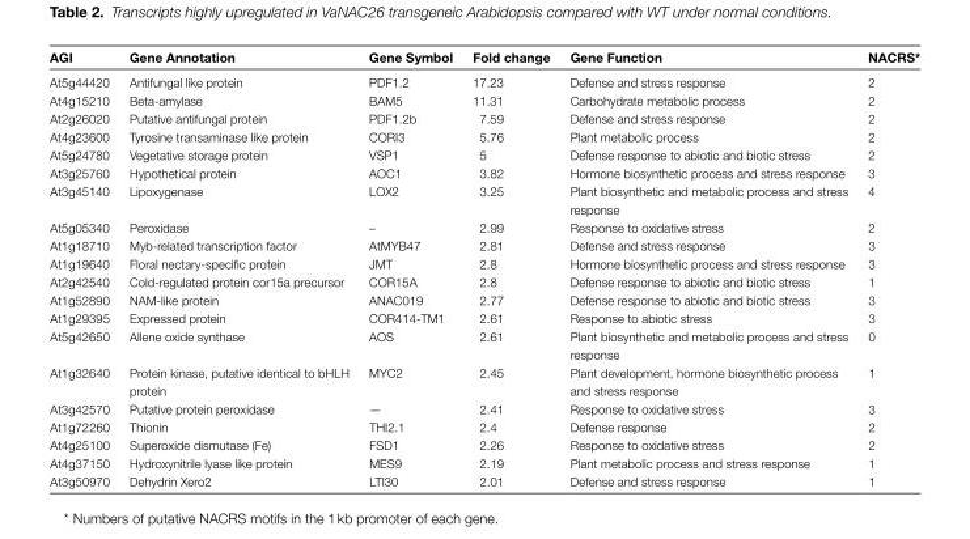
<table><thead><tr><td>AGI</td><td>Gene Annotation</td><td>Gene Symbol</td><td>Fold change</td><td>Gene Function</td><td>NACRS*</td></tr></thead><tbody><tr><td>At5g44420</td><td>Antifungal like protein</td><td>PDF1.2</td><td>17.23</td><td>Defense and stress response</td><td>2</td></tr><tr><td>At4g15210</td><td>Beta-amylase</td><td>BAM5</td><td>11.31</td><td>Carbohydrate metabolic process</td><td>2</td></tr><tr><td>At2g26020</td><td>Putative antifungal protein</td><td>PDF1.2b</td><td>7.59</td><td>Defense and stress response</td><td>2</td></tr><tr><td>At4g23600</td><td>Tyrosine transaminase like protein</td><td>CORI3</td><td>5.76</td><td>Plant metabolic process</td><td>2</td></tr><tr><td>At5g24780</td><td>Vegetative storage protein</td><td>VSP1</td><td>5</td><td>Defense response to abiotic and biotic stress</td><td>2</td></tr><tr><td>At3g25760</td><td>Hypothetical protein</td><td>AOC1</td><td>3.82</td><td>Hormone biosynthetic process and stress response</td><td>3</td></tr><tr><td>At3g45140</td><td>Lipoxygenase</td><td>LOX2</td><td>3.25</td><td>Plant biosynthetic and metabolic process and stress response</td><td>4</td></tr><tr><td>At5g05340</td><td>Peroxidase</td><td>–</td><td>2.99</td><td>Response to oxidative stress</td><td>2</td></tr><tr><td>At1g18710</td><td>Myb-related transcription factor</td><td>AtMYB47</td><td>2.81</td><td>Defense and stress response</td><td>3</td></tr><tr><td>At1g19640</td><td>Floral nectary-specific protein</td><td>JMT</td><td>2.8</td><td>Hormone biosynthetic process and stress response</td><td>3</td></tr><tr><td>At2g42540</td><td>Cold-regulated protein cor15a precursor</td><td>COR15A</td><td>2.8</td><td>Defense response to abiotic and biotic stress</td><td>1</td></tr><tr><td>At1g52890</td><td>NAM-like protein</td><td>ANAC019</td><td>2.77</td><td>Defense response to abiotic and biotic stress</td><td>3</td></tr><tr><td>At1g29395</td><td>Expressed protein</td><td>COR414-TM1</td><td>2.61</td><td>Response to abiotic stress</td><td>3</td></tr><tr><td>At5g42650</td><td>Allene oxide synthase</td><td>AOS</td><td>2.61</td><td>Plant biosynthetic and metabolic process and stress response</td><td>0</td></tr><tr><td>At1g32640</td><td>Protein kinase, putative identical to bHLH protein</td><td>MYC2</td><td>2.45</td><td>Plant development, hormone biosynthetic process and stress response</td><td>1</td></tr><tr><td>At3g42570</td><td>Putative protein peroxidase</td><td>—</td><td>2.41</td><td>Response to oxidative stress</td><td>3</td></tr><tr><td>At1g72260</td><td>Thionin</td><td>THI2.1</td><td>2.4</td><td>Defense response</td><td>2</td></tr><tr><td>At4g25100</td><td>Superoxide dismutase (Fe)</td><td>FSD1</td><td>2.26</td><td>Response to oxidative stress</td><td>2</td></tr><tr><td>At4g37150</td><td>Hydroxynitrile lyase like protein</td><td>MES9</td><td>2.19</td><td>Plant metabolic process and stress response</td><td>1</td></tr><tr><td>At3g50970</td><td>Dehydrin Xero2</td><td>LTI30</td><td>2.01</td><td>Defense and stress response</td><td>1</td></tr></tbody></table>